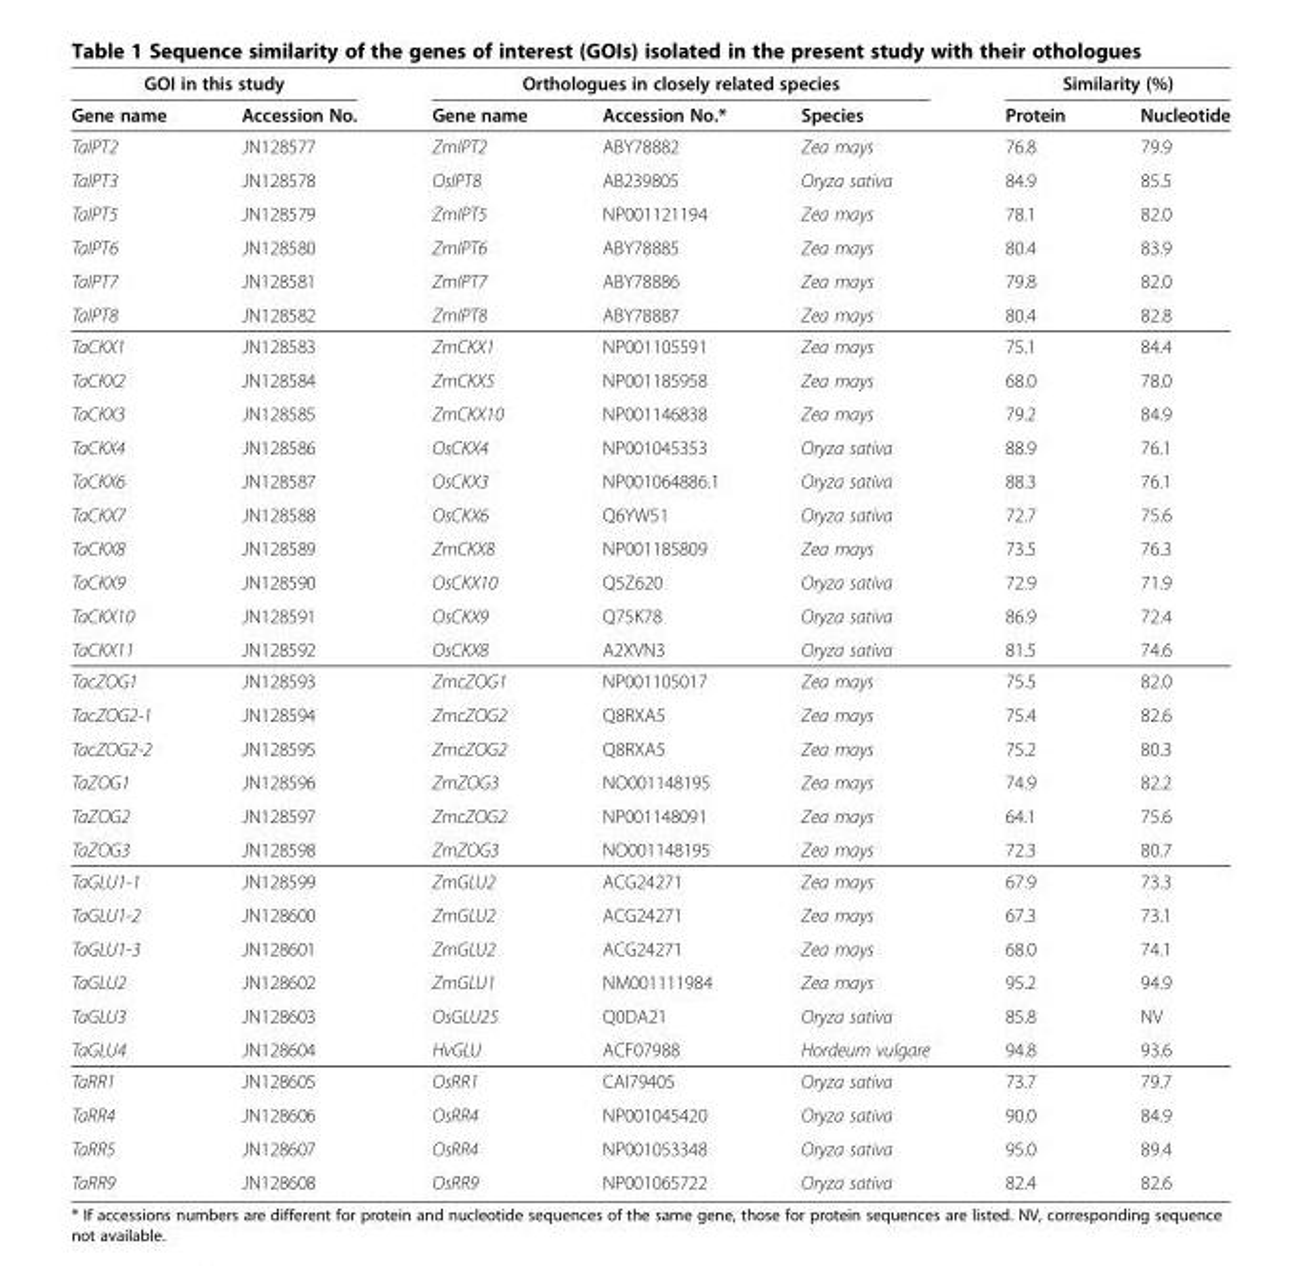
<table><thead><tr><td colspan="2">GOI in this study</td><td colspan="3">Orthologues in closely related species</td><td colspan="2">Similarity (%)</td></tr><tr><td>Gene name</td><td>Accession No.</td><td>Gene name</td><td>Accession No.*</td><td>Species</td><td>Protein</td><td>Nucleotide</td></tr></thead><tbody><tr><td>TaIPT2</td><td>JN128577</td><td>ZmIPT2</td><td>ABY78882</td><td>Zea mays</td><td>76.8</td><td>79.9</td></tr><tr><td>TaIPT3</td><td>JN128578</td><td>OsIPT8</td><td>AB239805</td><td>Oryza sativa</td><td>84.9</td><td>85.5</td></tr><tr><td>TaIPT5</td><td>JN128579</td><td>ZmIPT5</td><td>NP001121194</td><td>Zea mays</td><td>78.1</td><td>82.0</td></tr><tr><td>TaIPT6</td><td>JN128580</td><td>ZmIPT6</td><td>ABY78885</td><td>Zea mays</td><td>80.4</td><td>83.9</td></tr><tr><td>TaIPT7</td><td>JN128581</td><td>ZmIPT7</td><td>ABY78886</td><td>Zea mays</td><td>79.8</td><td>82.0</td></tr><tr><td>TaIPT8</td><td>JN128582</td><td>ZmIPT8</td><td>ABY78887</td><td>Zea mays</td><td>80.4</td><td>82.8</td></tr><tr><td>TaCKX1</td><td>JN128583</td><td>ZmCKX1</td><td>NP001105591</td><td>Zea mays</td><td>75.1</td><td>84.4</td></tr><tr><td>TaCKX2</td><td>JN128584</td><td>ZmCKX5</td><td>NP001185958</td><td>Zea mays</td><td>68.0</td><td>78.0</td></tr><tr><td>TaCKX3</td><td>JN128585</td><td>ZmCKX10</td><td>NP001146838</td><td>Zea mays</td><td>79.2</td><td>84.9</td></tr><tr><td>TaCKX4</td><td>JN128586</td><td>OsCKX4</td><td>NP001045353</td><td>Oryza sativa</td><td>88.9</td><td>76.1</td></tr><tr><td>TaCKX6</td><td>JN128587</td><td>OsCKX3</td><td>NP001064886.1</td><td>Oryza sativa</td><td>88.3</td><td>76.1</td></tr><tr><td>TaCKX7</td><td>JN128588</td><td>OsCKX6</td><td>Q6YW51</td><td>Oryza sativa</td><td>72.7</td><td>75.6</td></tr><tr><td>TaCKX8</td><td>JN128589</td><td>ZmCKX8</td><td>NP001185809</td><td>Zea mays</td><td>73.5</td><td>76.3</td></tr><tr><td>TaCKX9</td><td>JN128590</td><td>OsCKX10</td><td>Q5Z620</td><td>Oryza sativa</td><td>72.9</td><td>71.9</td></tr><tr><td>TaCKX10</td><td>JN128591</td><td>OsCKX9</td><td>Q75K78</td><td>Oryza sativa</td><td>86.9</td><td>72.4</td></tr><tr><td>TaCKX11</td><td>JN128592</td><td>OsCKX8</td><td>A2XVN3</td><td>Oryza sativa</td><td>81.5</td><td>74.6</td></tr><tr><td>TacZOG1</td><td>JN128593</td><td>ZmcZOG1</td><td>NP001105017</td><td>Zea mays</td><td>75.5</td><td>82.0</td></tr><tr><td>TacZOG2-1</td><td>JN128594</td><td>ZmcZOG2</td><td>Q8RXA5</td><td>Zea mays</td><td>75.4</td><td>82.6</td></tr><tr><td>TacZOG2-2</td><td>JN128595</td><td>ZmcZOG2</td><td>Q8RXA5</td><td>Zea mays</td><td>75.2</td><td>80.3</td></tr><tr><td>TaZOG1</td><td>JN128596</td><td>ZmZOG3</td><td>NO001148195</td><td>Zea mays</td><td>74.9</td><td>82.2</td></tr><tr><td>TaZOG2</td><td>JN128597</td><td>ZmcZOG2</td><td>NP001148091</td><td>Zea mays</td><td>64.1</td><td>75.6</td></tr><tr><td>TaZOG3</td><td>JN128598</td><td>ZmZOG3</td><td>NO001148195</td><td>Zea mays</td><td>72.3</td><td>80.7</td></tr><tr><td>TaGLU1-1</td><td>JN128599</td><td>ZmGLU2</td><td>ACG24271</td><td>Zea mays</td><td>67.9</td><td>73.3</td></tr><tr><td>TaGLU1-2</td><td>JN128600</td><td>ZmGLU2</td><td>ACG24271</td><td>Zea mays</td><td>67.3</td><td>73.1</td></tr><tr><td>TaGLU1-3</td><td>JN128601</td><td>ZmGLU2</td><td>ACG24271</td><td>Zea mays</td><td>68.0</td><td>74.1</td></tr><tr><td>TaGLU2</td><td>JN128602</td><td>ZmGLU1</td><td>NM001111984</td><td>Zea mays</td><td>95.2</td><td>94.9</td></tr><tr><td>TaGLU3</td><td>JN128603</td><td>OsGLU25</td><td>Q0DA21</td><td>Oryza sativa</td><td>85.8</td><td>NV</td></tr><tr><td>TaGLU4</td><td>JN128604</td><td>HvGLU</td><td>ACF07988</td><td>Hordeum vulgare</td><td>94.8</td><td>93.6</td></tr><tr><td>TaRR1</td><td>JN128605</td><td>OsRR1</td><td>CAI79405</td><td>Oryza sativa</td><td>73.7</td><td>79.7</td></tr><tr><td>TaRR4</td><td>JN128606</td><td>OsRR4</td><td>NP001045420</td><td>Oryza sativa</td><td>90.0</td><td>84.9</td></tr><tr><td>TaRR5</td><td>JN128607</td><td>OsRR4</td><td>NP001053348</td><td>Oryza sativa</td><td>95.0</td><td>89.4</td></tr><tr><td>TaRR9</td><td>JN128608</td><td>OsRR9</td><td>NP001065722</td><td>Oryza sativa</td><td>82.4</td><td>82.6</td></tr></tbody></table>